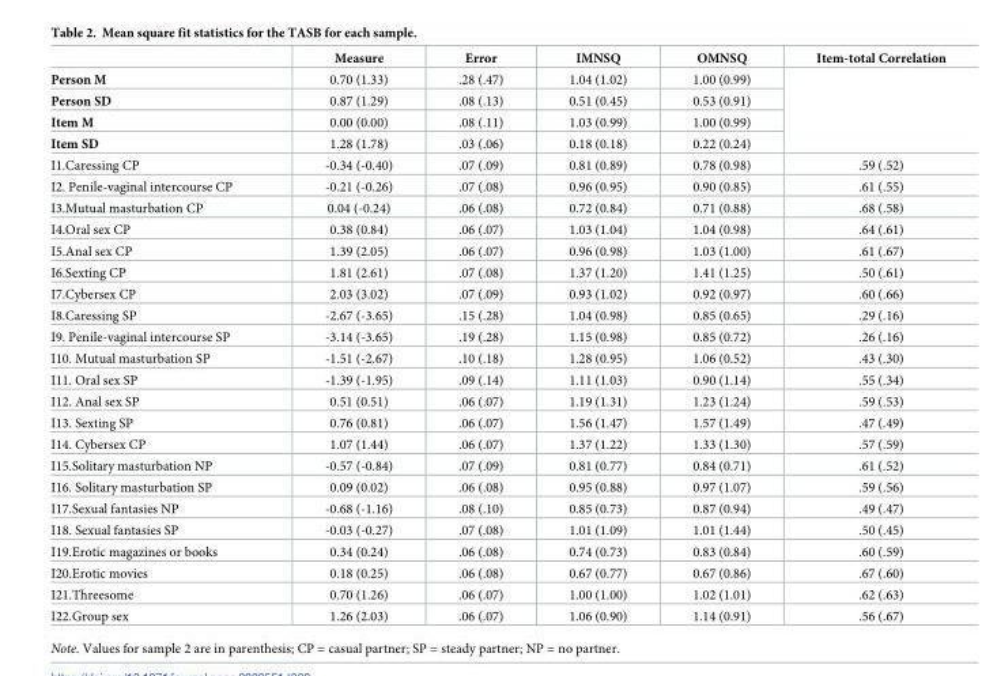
<table><thead><tr><td></td><td>Measure</td><td>Error</td><td>IMNSQ</td><td>OMNSQ</td><td>Item-total Correlation</td></tr></thead><tbody><tr><td>Person M</td><td>0.70 (1.33)</td><td>.28 (.47)</td><td>1.04 (1.02)</td><td>1.00 (0.99)</td><td rowspan="4"></td></tr><tr><td>Person SD</td><td>0.87 (1.29)</td><td>.08 (.13)</td><td>0.51 (0.45)</td><td>0.53 (0.91)</td></tr><tr><td>Item M</td><td>0.00 (0.00)</td><td>.08 (.11)</td><td>1.03 (0.99)</td><td>1.00 (0.99)</td></tr><tr><td>Item SD</td><td>1.28 (1.78)</td><td>.03 (.06)</td><td>0.18 (0.18)</td><td>0.22 (0.24)</td></tr><tr><td>I1.Caressing CP</td><td>-0.34 (-0.40)</td><td>.07 (.09)</td><td>0.81 (0.89)</td><td>0.78 (0.98)</td><td>.59 (.52)</td></tr><tr><td>I2. Penile-vaginal intercourse CP</td><td>-0.21 (-0.26)</td><td>.07 (.08)</td><td>0.96 (0.95)</td><td>0.90 (0.85)</td><td>.61 (.55)</td></tr><tr><td>I3.Mutual masturbation CP</td><td>0.04 (-0.24)</td><td>.06 (.08)</td><td>0.72 (0.84)</td><td>0.71 (0.88)</td><td>.68 (.58)</td></tr><tr><td>I4.Oral sex CP</td><td>0.38 (0.84)</td><td>.06 (.07)</td><td>1.03 (1.04)</td><td>1.04 (0.98)</td><td>.64 (.61)</td></tr><tr><td>I5.Anal sex CP</td><td>1.39 (2.05)</td><td>.06 (.07)</td><td>0.96 (0.98)</td><td>1.03 (1.00)</td><td>.61 (.67)</td></tr><tr><td>I6.Sexting CP</td><td>1.81 (2.61)</td><td>.07 (.08)</td><td>1.37 (1.20)</td><td>1.41 (1.25)</td><td>.50 (.61)</td></tr><tr><td>I7.Cybersex CP</td><td>2.03 (3.02)</td><td>.07 (.09)</td><td>0.93 (1.02)</td><td>0.92 (0.97)</td><td>.60 (.66)</td></tr><tr><td>I8.Caressing SP</td><td>-2.67 (-3.65)</td><td>.15 (.28)</td><td>1.04 (0.98)</td><td>0.85 (0.65)</td><td>.29 (.16)</td></tr><tr><td>I9. Penile-vaginal intercourse SP</td><td>-3.14 (-3.65)</td><td>.19 (.28)</td><td>1.15 (0.98)</td><td>0.85 (0.72)</td><td>.26 (.16)</td></tr><tr><td>I10. Mutual masturbation SP</td><td>-1.51 (-2.67)</td><td>.10 (.18)</td><td>1.28 (0.95)</td><td>1.06 (0.52)</td><td>.43 (.30)</td></tr><tr><td>I11. Oral sex SP</td><td>-1.39 (-1.95)</td><td>.09 (.14)</td><td>1.11 (1.03)</td><td>0.90 (1.14)</td><td>.55 (.34)</td></tr><tr><td>I12. Anal sex SP</td><td>0.51 (0.51)</td><td>.06 (.07)</td><td>1.19 (1.31)</td><td>1.23 (1.24)</td><td>.59 (.53)</td></tr><tr><td>I13. Sexting SP</td><td>0.76 (0.81)</td><td>.06 (.07)</td><td>1.56 (1.47)</td><td>1.57 (1.49)</td><td>.47 (.49)</td></tr><tr><td>I14. Cybersex CP</td><td>1.07 (1.44)</td><td>.06 (.07)</td><td>1.37 (1.22)</td><td>1.33 (1.30)</td><td>.57 (.59)</td></tr><tr><td>I15.Solitary masturbation NP</td><td>-0.57 (-0.84)</td><td>.07 (.09)</td><td>0.81 (0.77)</td><td>0.84 (0.71)</td><td>.61 (.52)</td></tr><tr><td>I16. Solitary masturbation SP</td><td>0.09 (0.02)</td><td>.06 (.08)</td><td>0.95 (0.88)</td><td>0.97 (1.07)</td><td>.59 (.56)</td></tr><tr><td>I17.Sexual fantasies NP</td><td>-0.68 (-1.16)</td><td>.08 (.10)</td><td>0.85 (0.73)</td><td>0.87 (0.94)</td><td>.49 (.47)</td></tr><tr><td>I18. Sexual fantasies SP</td><td>-0.03 (-0.27)</td><td>.07 (.08)</td><td>1.01 (1.09)</td><td>1.01 (1.44)</td><td>.50 (.45)</td></tr><tr><td>I19.Erotic magazines or books</td><td>0.34 (0.24)</td><td>.06 (.08)</td><td>0.74 (0.73)</td><td>0.83 (0.84)</td><td>.60 (.59)</td></tr><tr><td>I20.Erotic movies</td><td>0.18 (0.25)</td><td>.06 (.08)</td><td>0.67 (0.77)</td><td>0.67 (0.86)</td><td>.67 (.60)</td></tr><tr><td>I21.Threesome</td><td>0.70 (1.26)</td><td>.06 (.07)</td><td>1.00 (1.00)</td><td>1.02 (1.01)</td><td>.62 (.63)</td></tr><tr><td>I22.Group sex</td><td>1.26 (2.03)</td><td>.06 (.07)</td><td>1.06 (0.90)</td><td>1.14 (0.91)</td><td>.56 (.67)</td></tr></tbody></table>